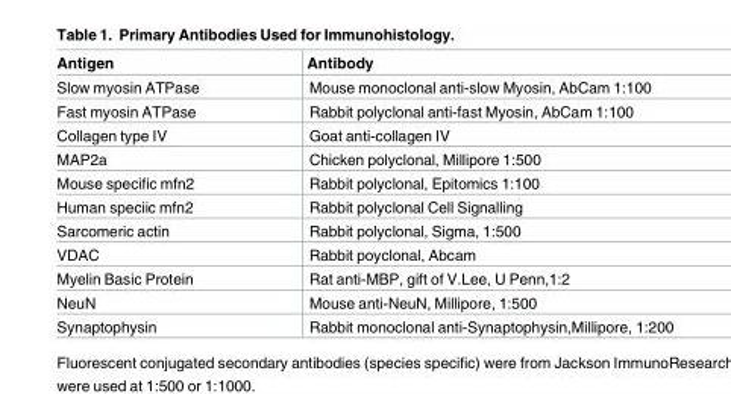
<table><thead><tr><td>Antigen</td><td>Antibody</td></tr></thead><tbody><tr><td>Slow myosin ATPase</td><td>Mouse monoclonal anti-slow Myosin, AbCam 1:100</td></tr><tr><td>Fast myosin ATPase</td><td>Rabbit polyclonal anti-fast Myosin, AbCam 1:100</td></tr><tr><td>Collagen type IV</td><td>Goat anti-collagen IV</td></tr><tr><td>MAP2a</td><td>Chicken polyclonal, Millipore 1:500</td></tr><tr><td>Mouse specific mfn2</td><td>Rabbit polyclonal, Epitomics 1:100</td></tr><tr><td>Human speciic mfn2</td><td>Rabbit polyclonal Cell Signalling</td></tr><tr><td>Sarcomeric actin</td><td>Rabbit polyclonal, Sigma, 1:500</td></tr><tr><td>VDAC</td><td>Rabbit poyclonal, Abcam</td></tr><tr><td>Myelin Basic Protein</td><td>Rat anti-MBP, gift of V.Lee, U Penn,1:2</td></tr><tr><td>NeuN</td><td>Mouse anti-NeuN, Millipore, 1:500</td></tr><tr><td>Synaptophysin</td><td>Rabbit monoclonal anti-Synaptophysin,Millipore, 1:200</td></tr></tbody></table>